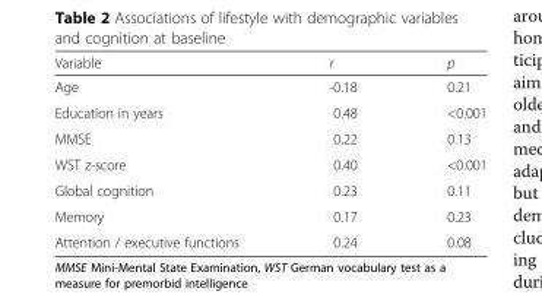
<table><thead><tr><td>Variable</td><td>r</td><td>p</td></tr></thead><tbody><tr><td>Age</td><td>-0.18</td><td>0.21</td></tr><tr><td>Education in years</td><td>0.48</td><td>&lt;0.001</td></tr><tr><td>MMSE</td><td>0.22</td><td>0.13</td></tr><tr><td>WST z-score</td><td>0.40</td><td>&lt;0.001</td></tr><tr><td>Global cognition</td><td>0.23</td><td>0.11</td></tr><tr><td>Memory</td><td>0.17</td><td>0.23</td></tr><tr><td>Attention / executive functions</td><td>0.24</td><td>0.08</td></tr></tbody></table>